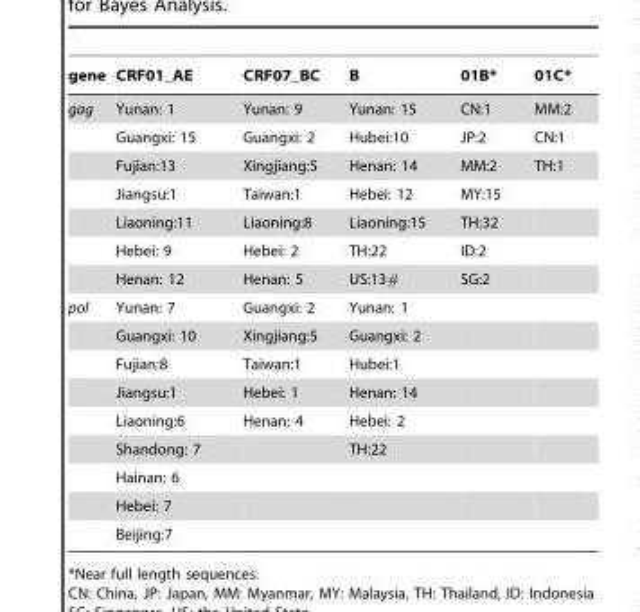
<table><thead><tr><td>gene</td><td>CRF01_AE</td><td>CRF07_BC</td><td>B</td><td>01B*</td><td>01C*</td></tr></thead><tbody><tr><td rowspan="7">gag</td><td>Yunan: 1</td><td>Yunan: 9</td><td>Yunan: 15</td><td>CN:1</td><td>MM:2</td></tr><tr><td>Guangxi: 15</td><td>Guangxi: 2</td><td>Hubei:10</td><td>JP:2</td><td>CN:1</td></tr><tr><td>Fujian:13</td><td>Xingjiang:5</td><td>Henan: 14</td><td>MM:2</td><td>TH:1</td></tr><tr><td>Jiangsu:1</td><td>Taiwan:1</td><td>Hebei: 12</td><td>MY:15</td><td></td></tr><tr><td>Liaoning:11</td><td>Liaoning:8</td><td>Liaoning:15</td><td>TH:32</td><td></td></tr><tr><td>Hebei: 9</td><td>Hebei: 2</td><td>TH:22</td><td>ID:2</td><td></td></tr><tr><td>Henan: 12</td><td>Henan: 5</td><td>US:13#</td><td>SG:2</td><td></td></tr><tr><td rowspan="9">pol</td><td>Yunan: 7</td><td>Guangxi: 2</td><td>Yunan: 1</td><td></td><td></td></tr><tr><td>Guangxi: 10</td><td>Xingjiang:5</td><td>Guangxi: 2</td><td></td><td></td></tr><tr><td>Fujian:8</td><td>Taiwan:1</td><td>Hubei:1</td><td></td><td></td></tr><tr><td>Jiangsu:1</td><td>Hebei: 1</td><td>Henan: 14</td><td></td><td></td></tr><tr><td>Liaoning:6</td><td>Henan: 4</td><td>Hebei: 2</td><td></td><td></td></tr><tr><td>Shandong: 7</td><td></td><td>TH:22</td><td></td><td></td></tr><tr><td>Hainan: 6</td><td></td><td></td><td></td><td></td></tr><tr><td>Hebei: 7</td><td></td><td></td><td></td><td></td></tr><tr><td>Beijing:7</td><td></td><td></td><td></td><td></td></tr></tbody></table>